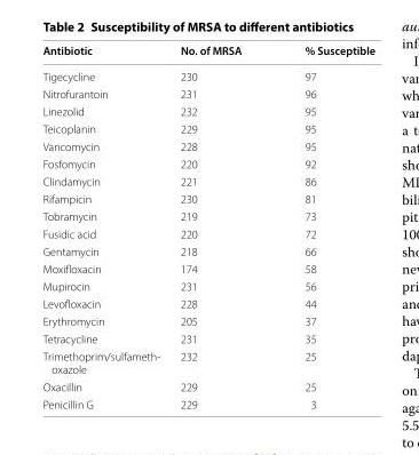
<table><thead><tr><td>Antibiotic</td><td>No. of MRSA</td><td>% Susceptible</td></tr></thead><tbody><tr><td>Tigecycline</td><td>230</td><td>97</td></tr><tr><td>Nitrofurantoin</td><td>231</td><td>96</td></tr><tr><td>Linezolid</td><td>232</td><td>95</td></tr><tr><td>Teicoplanin</td><td>229</td><td>95</td></tr><tr><td>Vancomycin</td><td>228</td><td>95</td></tr><tr><td>Fosfomycin</td><td>220</td><td>92</td></tr><tr><td>Clindamycin</td><td>221</td><td>86</td></tr><tr><td>Rifampicin</td><td>230</td><td>81</td></tr><tr><td>Tobramycin</td><td>219</td><td>73</td></tr><tr><td>Fusidic acid</td><td>220</td><td>72</td></tr><tr><td>Gentamycin</td><td>218</td><td>66</td></tr><tr><td>Moxifloxacin</td><td>174</td><td>58</td></tr><tr><td>Mupirocin</td><td>231</td><td>56</td></tr><tr><td>Levofloxacin</td><td>228</td><td>44</td></tr><tr><td>Erythromycin</td><td>205</td><td>37</td></tr><tr><td>Tetracycline</td><td>231</td><td>35</td></tr><tr><td>Trimethoprim/sulfameth‑ oxazole</td><td>232</td><td>25</td></tr><tr><td>Oxacillin</td><td>229</td><td>25</td></tr><tr><td>Penicillin G</td><td>229</td><td>3</td></tr></tbody></table>